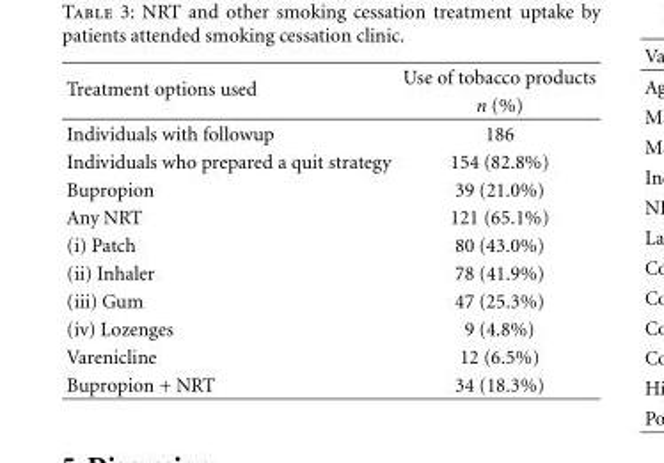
<table><thead><tr><td rowspan="2">Treatment options used</td><td rowspan="2">Use of tobacco products n (%)</td></tr><tr></tr></thead><tbody><tr><td>Individuals with followup</td><td>186</td></tr><tr><td>Individuals who prepared a quit strategy</td><td>154 (82.8%)</td></tr><tr><td>Bupropion</td><td>39 (21.0%)</td></tr><tr><td>Any NRT</td><td>121 (65.1%)</td></tr><tr><td>(i) Patch</td><td>80 (43.0%)</td></tr><tr><td>(ii) Inhaler</td><td>78 (41.9%)</td></tr><tr><td>(iii) Gum</td><td>47 (25.3%)</td></tr><tr><td>(iv) Lozenges</td><td>9 (4.8%)</td></tr><tr><td>Varenicline</td><td>12 (6.5%)</td></tr><tr><td>Bupropion + NRT</td><td>34 (18.3%)</td></tr></tbody></table>